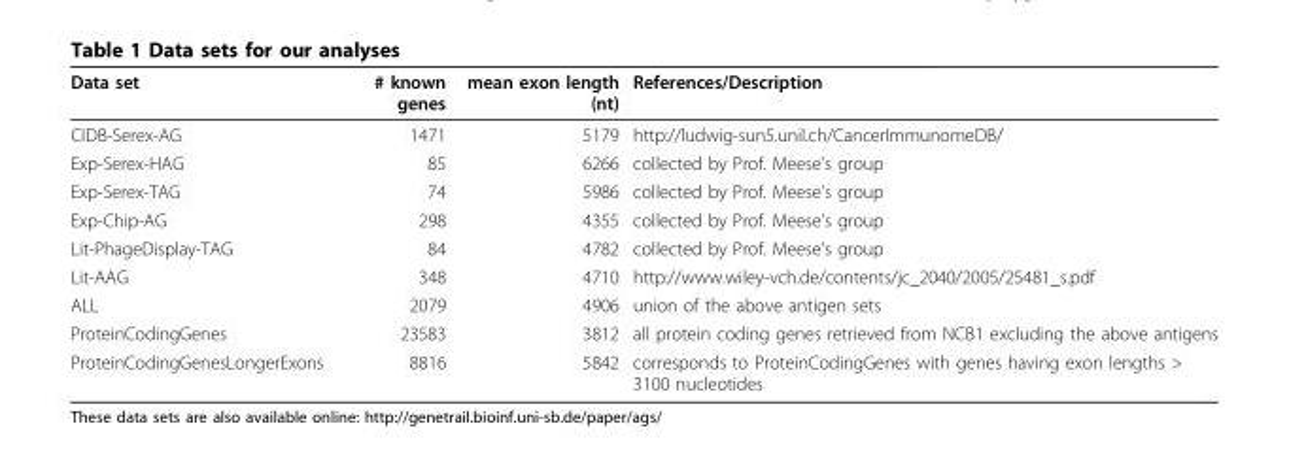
<table><thead><tr><td>Data set</td><td># known genes</td><td>mean exon length (nt)</td><td>References/Description</td></tr></thead><tbody><tr><td>CIDB-Serex-AG</td><td>1471</td><td>5179</td><td>http://ludwig-sun5.unil.ch/CancerImmunomeDB/</td></tr><tr><td>Exp-Serex-HAG</td><td>85</td><td>6266</td><td>collected by Prof. Meese’s group</td></tr><tr><td>Exp-Serex-TAG</td><td>74</td><td>5986</td><td>collected by Prof. Meese’s group</td></tr><tr><td>Exp-Chip-AG</td><td>298</td><td>4355</td><td>collected by Prof. Meese’s group</td></tr><tr><td>Lit-PhageDisplay-TAG</td><td>84</td><td>4782</td><td>collected by Prof. Meese’s group</td></tr><tr><td>Lit-AAG</td><td>348</td><td>4710</td><td>http://www.wiley-vch.de/contents/jc_2040/2005/25481_s.pdf</td></tr><tr><td>ALL</td><td>2079</td><td>4906</td><td>union of the above antigen sets</td></tr><tr><td>ProteinCodingGenes</td><td>23583</td><td>3812</td><td>all protein coding genes retrieved from NCB1 excluding the above antigens</td></tr><tr><td>ProteinCodingGenesLongerExons</td><td>8816</td><td>5842</td><td>corresponds to ProteinCodingGenes with genes having exon lengths &gt; 3100 nucleotides</td></tr></tbody></table>